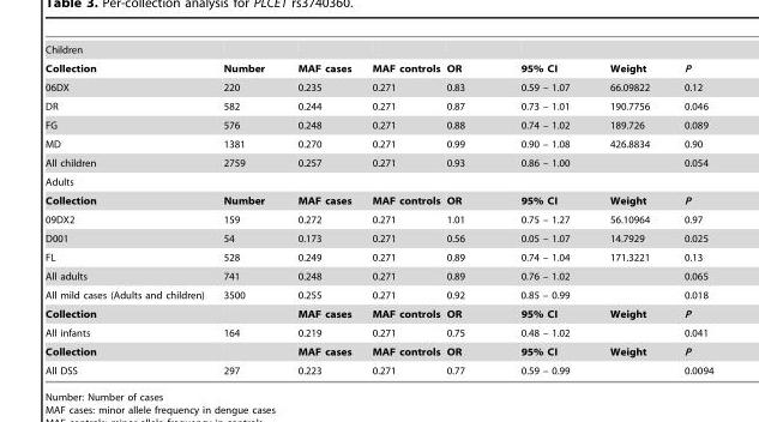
<table><tbody><tr><td colspan="8">Children</td></tr><tr><td>Collection</td><td>Number</td><td>MAF cases</td><td>MAF controls</td><td>OR</td><td>95% CI</td><td>Weight</td><td>P</td></tr><tr><td>06DX</td><td>220</td><td>0.235</td><td>0.271</td><td>0.83</td><td>0.59 – 1.07</td><td>66.09822</td><td>0.12</td></tr><tr><td>DR</td><td>582</td><td>0.244</td><td>0.271</td><td>0.87</td><td>0.73 – 1.01</td><td>190.7756</td><td>0.046</td></tr><tr><td>FG</td><td>576</td><td>0.248</td><td>0.271</td><td>0.88</td><td>0.74 – 1.02</td><td>189.726</td><td>0.089</td></tr><tr><td>MD</td><td>1381</td><td>0.270</td><td>0.271</td><td>0.99</td><td>0.90 – 1.08</td><td>426.8834</td><td>0.90</td></tr><tr><td>All children</td><td>2759</td><td>0.257</td><td>0.271</td><td>0.93</td><td>0.86 – 1.00</td><td></td><td>0.054</td></tr><tr><td colspan="8">Adults</td></tr><tr><td>Collection</td><td>Number</td><td>MAF cases</td><td>MAF controls</td><td>OR</td><td>95% CI</td><td>Weight</td><td>P</td></tr><tr><td>09DX2</td><td>159</td><td>0.272</td><td>0.271</td><td>1.01</td><td>0.75 – 1.27</td><td>56.10964</td><td>0.97</td></tr><tr><td>D001</td><td>54</td><td>0.173</td><td>0.271</td><td>0.56</td><td>0.05 – 1.07</td><td>14.7929</td><td>0.025</td></tr><tr><td>FL</td><td>528</td><td>0.249</td><td>0.271</td><td>0.89</td><td>0.74 – 1.04</td><td>171.3221</td><td>0.13</td></tr><tr><td>All adults</td><td>741</td><td>0.248</td><td>0.271</td><td>0.89</td><td>0.76 – 1.02</td><td></td><td>0.065</td></tr><tr><td>All mild cases (Adults and children)</td><td>3500</td><td>0.255</td><td>0.271</td><td>0.92</td><td>0.85 – 0.99</td><td></td><td>0.018</td></tr><tr><td>Collection</td><td></td><td>MAF cases</td><td>MAF controls</td><td>OR</td><td>95% CI</td><td>Weight</td><td>P</td></tr><tr><td>All infants</td><td>164</td><td>0.219</td><td>0.271</td><td>0.75</td><td>0.48 – 1.02</td><td></td><td>0.041</td></tr><tr><td>Collection</td><td></td><td>MAF cases</td><td>MAF controls</td><td>OR</td><td>95% CI</td><td>Weight</td><td>P</td></tr><tr><td>All DSS</td><td>297</td><td>0.223</td><td>0.271</td><td>0.77</td><td>0.59 – 0.99</td><td></td><td>0.0094</td></tr></tbody></table>